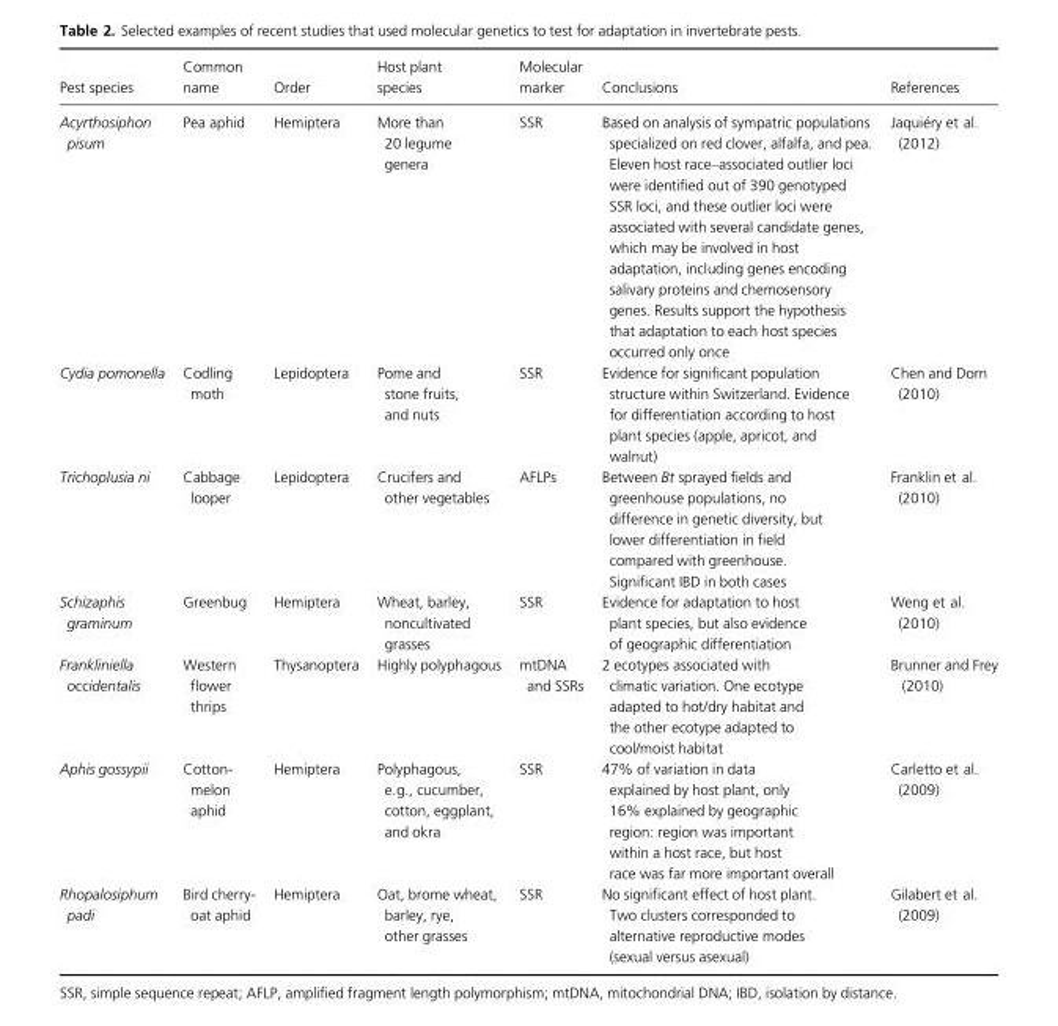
<table><thead><tr><td>Pest species</td><td>Common name</td><td>Order</td><td>Host plant species</td><td>Molecular marker</td><td>Conclusions</td><td>References</td></tr></thead><tbody><tr><td>Acyrthosiphon pisum</td><td>Pea aphid</td><td>Hemiptera</td><td>More than 20 legume genera</td><td>SSR</td><td>Based on analysis of sympatric populations specialized on red clover, alfalfa, and pea. Eleven host race–associated outlier loci were identified out of 390 genotyped SSR loci, and these outlier loci were associated with several candidate genes, which may be involved in host adaptation, including genes encoding salivary proteins and chemosensory genes. Results support the hypothesis that adaptation to each host species occurred only once</td><td>Jaqui�ery et al. (2012)</td></tr><tr><td>Cydia pomonella</td><td>Codling moth</td><td>Lepidoptera</td><td>Pome and stone fruits, and nuts</td><td>SSR</td><td>Evidence for significant population structure within Switzerland. Evidence for differentiation according to host plant species (apple, apricot, and walnut)</td><td>Chen and Dorn (2010)</td></tr><tr><td>Trichoplusia ni</td><td>Cabbage looper</td><td>Lepidoptera</td><td>Crucifers and other vegetables</td><td>AFLPs</td><td>Between Bt sprayed fields and greenhouse populations, no difference in genetic diversity, but lower differentiation in field compared with greenhouse. Significant IBD in both cases</td><td>Franklin et al. (2010)</td></tr><tr><td>Schizaphis graminum</td><td>Greenbug</td><td>Hemiptera</td><td>Wheat, barley, noncultivated grasses</td><td>SSR</td><td>Evidence for adaptation to host plant species, but also evidence of geographic differentiation</td><td>Weng et al. (2010)</td></tr><tr><td>Frankliniella occidentalis</td><td>Western flower thrips</td><td>Thysanoptera</td><td>Highly polyphagous</td><td>mtDNA and SSRs</td><td>2 ecotypes associated with climatic variation. One ecotype adapted to hot/dry habitat and the other ecotype adapted to cool/moist habitat</td><td>Brunner and Frey (2010)</td></tr><tr><td>Aphis gossypii</td><td>Cotton- melon aphid</td><td>Hemiptera</td><td>Polyphagous, e.g., cucumber, cotton, eggplant, and okra</td><td>SSR</td><td>47% of variation in data explained by host plant, only 16% explained by geographic region: region was important within a host race, but host race was far more important overall</td><td>Carletto et al. (2009)</td></tr><tr><td>Rhopalosiphum padi</td><td>Bird cherry- oat aphid</td><td>Hemiptera</td><td>Oat, brome wheat, barley, rye, other grasses</td><td>SSR</td><td>No significant effect of host plant. Two clusters corresponded to alternative reproductive modes (sexual versus asexual)</td><td>Gilabert et al. (2009)</td></tr></tbody></table>